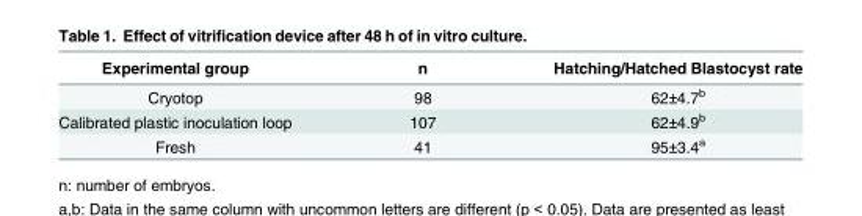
<table><thead><tr><td>Experimental group</td><td>n</td><td>Hatching/Hatched Blastocyst rate</td></tr></thead><tbody><tr><td>Cryotop</td><td>98</td><td>62±4.7<sup>b</sup></td></tr><tr><td>Calibrated plastic inoculation loop</td><td>107</td><td>62±4.9<sup>b</sup></td></tr><tr><td>Fresh</td><td>41</td><td>95±3.4<sup>a</sup></td></tr></tbody></table>